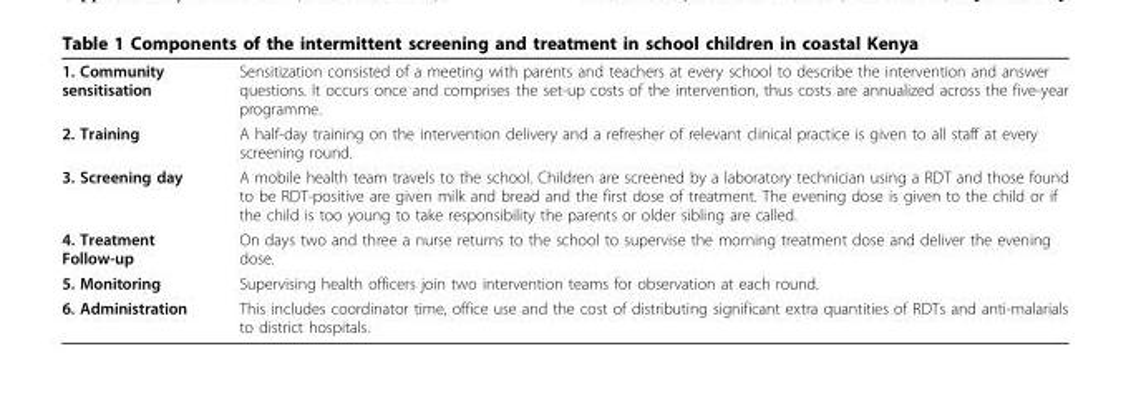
<table><tbody><tr><td>1. Community sensitisation</td><td>Sensitization consisted of a meeting with parents and teachers at every school to describe the intervention and answer questions. It occurs once and comprises the set-up costs of the intervention, thus costs are annualized across the five-year programme.</td></tr><tr><td>2. Training</td><td>A half-day training on the intervention delivery and a refresher of relevant clinical practice is given to all staff at every screening round.</td></tr><tr><td>3. Screening day</td><td>A mobile health team travels to the school. Children are screened by a laboratory technician using a RDT and those found to be RDT-positive are given milk and bread and the first dose of treatment. The evening dose is given to the child or if the child is too young to take responsibility the parents or older sibling are called.</td></tr><tr><td>4. Treatment Follow-up</td><td>On days two and three a nurse returns to the school to supervise the morning treatment dose and deliver the evening dose.</td></tr><tr><td>5. Monitoring</td><td>Supervising health officers join two intervention teams for observation at each round.</td></tr><tr><td>6. Administration</td><td>This includes coordinator time, office use and the cost of distributing significant extra quantities of RDTs and anti-malarials to district hospitals.</td></tr></tbody></table>